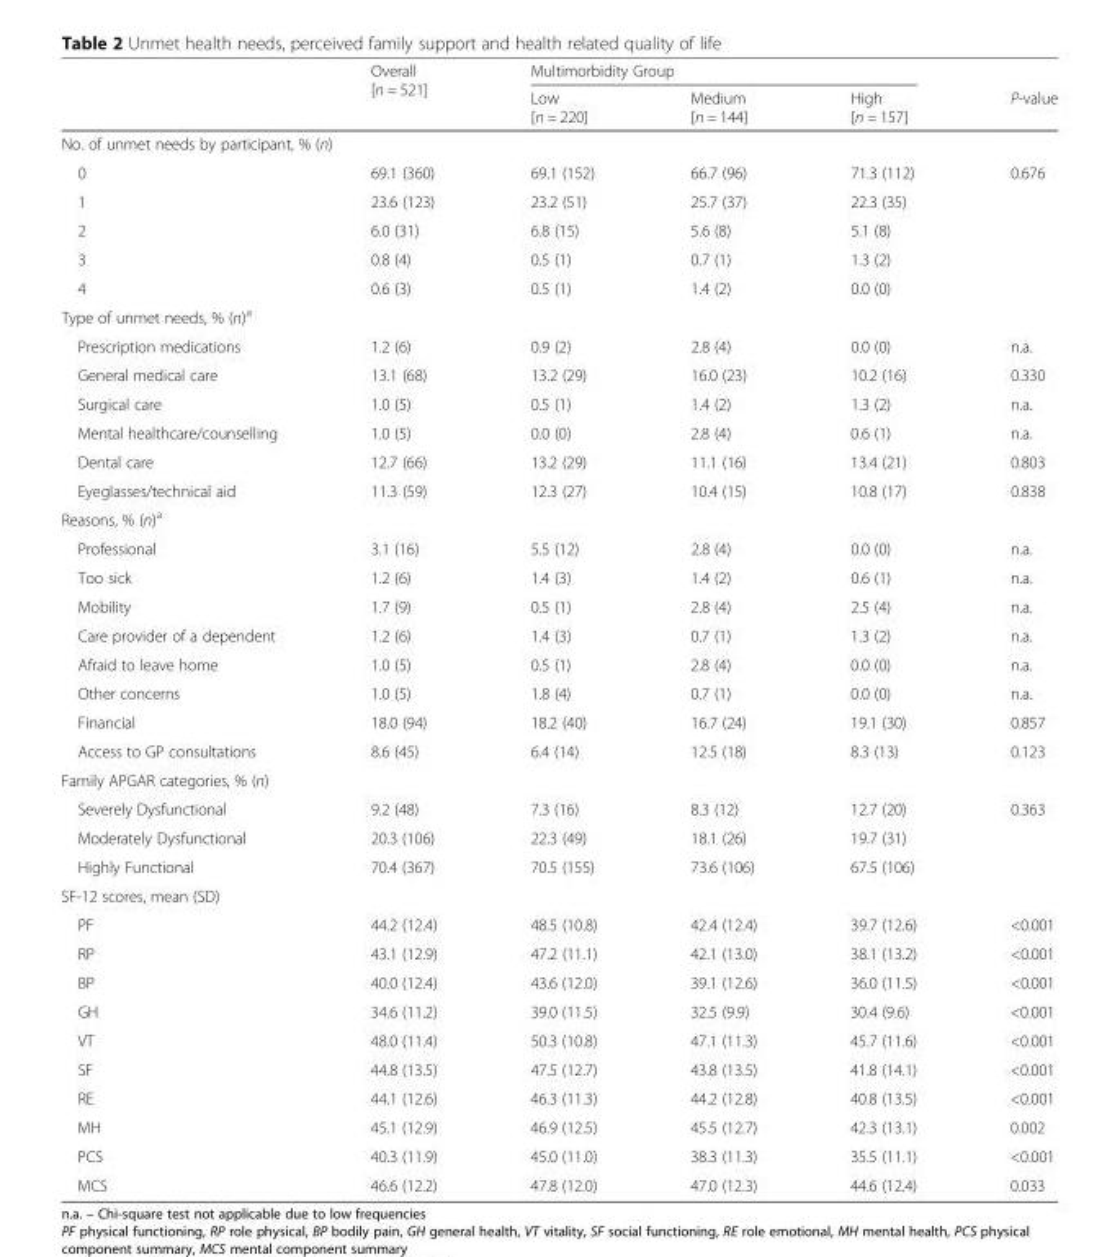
<table><thead><tr><td rowspan="2"></td><td rowspan="2">Overall [n = 521]</td><td colspan="3">Multimorbidity Group</td><td rowspan="2">P-value</td></tr><tr><td>Low [n = 220]</td><td>Medium [n = 144]</td><td>High [n = 157]</td></tr></thead><tbody><tr><td colspan="6">No. of unmet needs by participant, % (n)</td></tr><tr><td>0</td><td>69.1 (360)</td><td>69.1 (152)</td><td>66.7 (96)</td><td>71.3 (112)</td><td>0.676</td></tr><tr><td>1</td><td>23.6 (123)</td><td>23.2 (51)</td><td>25.7 (37)</td><td>22.3 (35)</td><td></td></tr><tr><td>2</td><td>6.0 (31)</td><td>6.8 (15)</td><td>5.6 (8)</td><td>5.1 (8)</td><td></td></tr><tr><td>3</td><td>0.8 (4)</td><td>0.5 (1)</td><td>0.7 (1)</td><td>1.3 (2)</td><td></td></tr><tr><td>4</td><td>0.6 (3)</td><td>0.5 (1)</td><td>1.4 (2)</td><td>0.0 (0)</td><td></td></tr><tr><td colspan="6">Type of unmet needs, % (n)<sup>a</sup></td></tr><tr><td>Prescription medications</td><td>1.2 (6)</td><td>0.9 (2)</td><td>2.8 (4)</td><td>0.0 (0)</td><td>n.a.</td></tr><tr><td>General medical care</td><td>13.1 (68)</td><td>13.2 (29)</td><td>16.0 (23)</td><td>10.2 (16)</td><td>0.330</td></tr><tr><td>Surgical care</td><td>1.0 (5)</td><td>0.5 (1)</td><td>1.4 (2)</td><td>1.3 (2)</td><td>n.a.</td></tr><tr><td>Mental healthcare/counselling</td><td>1.0 (5)</td><td>0.0 (0)</td><td>2.8 (4)</td><td>0.6 (1)</td><td>n.a.</td></tr><tr><td>Dental care</td><td>12.7 (66)</td><td>13.2 (29)</td><td>11.1 (16)</td><td>13.4 (21)</td><td>0.803</td></tr><tr><td>Eyeglasses/technical aid</td><td>11.3 (59)</td><td>12.3 (27)</td><td>10.4 (15)</td><td>10.8 (17)</td><td>0.838</td></tr><tr><td colspan="6">Reasons, % (n)<sup>a</sup></td></tr><tr><td>Professional</td><td>3.1 (16)</td><td>5.5 (12)</td><td>2.8 (4)</td><td>0.0 (0)</td><td>n.a.</td></tr><tr><td>Too sick</td><td>1.2 (6)</td><td>1.4 (3)</td><td>1.4 (2)</td><td>0.6 (1)</td><td>n.a.</td></tr><tr><td>Mobility</td><td>1.7 (9)</td><td>0.5 (1)</td><td>2.8 (4)</td><td>2.5 (4)</td><td>n.a.</td></tr><tr><td>Care provider of a dependent</td><td>1.2 (6)</td><td>1.4 (3)</td><td>0.7 (1)</td><td>1.3 (2)</td><td>n.a.</td></tr><tr><td>Afraid to leave home</td><td>1.0 (5)</td><td>0.5 (1)</td><td>2.8 (4)</td><td>0.0 (0)</td><td>n.a.</td></tr><tr><td>Other concerns</td><td>1.0 (5)</td><td>1.8 (4)</td><td>0.7 (1)</td><td>0.0 (0)</td><td>n.a.</td></tr><tr><td>Financial</td><td>18.0 (94)</td><td>18.2 (40)</td><td>16.7 (24)</td><td>19.1 (30)</td><td>0.857</td></tr><tr><td>Access to GP consultations</td><td>8.6 (45)</td><td>6.4 (14)</td><td>12.5 (18)</td><td>8.3 (13)</td><td>0.123</td></tr><tr><td colspan="6">Family APGAR categories, % (n)</td></tr><tr><td>Severely Dysfunctional</td><td>9.2 (48)</td><td>7.3 (16)</td><td>8.3 (12)</td><td>12.7 (20)</td><td>0.363</td></tr><tr><td>Moderately Dysfunctional</td><td>20.3 (106)</td><td>22.3 (49)</td><td>18.1 (26)</td><td>19.7 (31)</td><td></td></tr><tr><td>Highly Functional</td><td>70.4 (367)</td><td>70.5 (155)</td><td>73.6 (106)</td><td>67.5 (106)</td><td></td></tr><tr><td colspan="6">SF-12 scores, mean (SD)</td></tr><tr><td>PF</td><td>44.2 (12.4)</td><td>48.5 (10.8)</td><td>42.4 (12.4)</td><td>39.7 (12.6)</td><td>&lt;0.001</td></tr><tr><td>RP</td><td>43.1 (12.9)</td><td>47.2 (11.1)</td><td>42.1 (13.0)</td><td>38.1 (13.2)</td><td>&lt;0.001</td></tr><tr><td>BP</td><td>40.0 (12.4)</td><td>43.6 (12.0)</td><td>39.1 (12.6)</td><td>36.0 (11.5)</td><td>&lt;0.001</td></tr><tr><td>GH</td><td>34.6 (11.2)</td><td>39.0 (11.5)</td><td>32.5 (9.9)</td><td>30.4 (9.6)</td><td>&lt;0.001</td></tr><tr><td>VT</td><td>48.0 (11.4)</td><td>50.3 (10.8)</td><td>47.1 (11.3)</td><td>45.7 (11.6)</td><td>&lt;0.001</td></tr><tr><td>SF</td><td>44.8 (13.5)</td><td>47.5 (12.7)</td><td>43.8 (13.5)</td><td>41.8 (14.1)</td><td>&lt;0.001</td></tr><tr><td>RE</td><td>44.1 (12.6)</td><td>46.3 (11.3)</td><td>44.2 (12.8)</td><td>40.8 (13.5)</td><td>&lt;0.001</td></tr><tr><td>MH</td><td>45.1 (12.9)</td><td>46.9 (12.5)</td><td>45.5 (12.7)</td><td>42.3 (13.1)</td><td>0.002</td></tr><tr><td>PCS</td><td>40.3 (11.9)</td><td>45.0 (11.0)</td><td>38.3 (11.3)</td><td>35.5 (11.1)</td><td>&lt;0.001</td></tr><tr><td>MCS</td><td>46.6 (12.2)</td><td>47.8 (12.0)</td><td>47.0 (12.3)</td><td>44.6 (12.4)</td><td>0.033</td></tr></tbody></table>